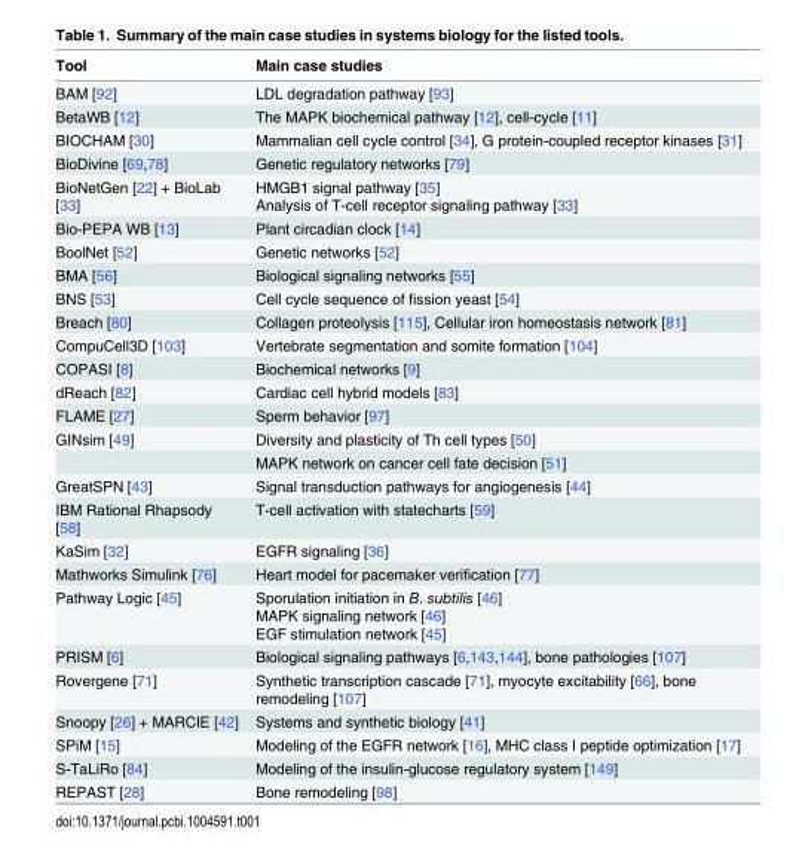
<table><thead><tr><td>Tool</td><td>Main case studies</td></tr></thead><tbody><tr><td>BAM [92]</td><td>LDL degradation pathway [93]</td></tr><tr><td>BetaWB [12]</td><td>The MAPK biochemical pathway [12], cell-cycle [11]</td></tr><tr><td>BIOCHAM [30]</td><td>Mammalian cell cycle control [34], G protein-coupled receptor kinases [31]</td></tr><tr><td>BioDivine [69,78]</td><td>Genetic regulatory networks [79]</td></tr><tr><td>BioNetGen [22] + BioLab [33]</td><td>HMGB1 signal pathway [35] Analysis of T-cell receptor signaling pathway [33]</td></tr><tr><td>Bio-PEPA WB [13]</td><td>Plant circadian clock [14]</td></tr><tr><td>BoolNet [52]</td><td>Genetic networks [52]</td></tr><tr><td>BMA [56]</td><td>Biological signaling networks [55]</td></tr><tr><td>BNS [53]</td><td>Cell cycle sequence of fission yeast [54]</td></tr><tr><td>Breach [80]</td><td>Collagen proteolysis [115], Cellular iron homeostasis network [81]</td></tr><tr><td>CompuCell3D [103]</td><td>Vertebrate segmentation and somite formation [104]</td></tr><tr><td>COPASI [8]</td><td>Biochemical networks [9]</td></tr><tr><td>dReach [82]</td><td>Cardiac cell hybrid models [83]</td></tr><tr><td>FLAME [27]</td><td>Sperm behavior [97]</td></tr><tr><td rowspan="2">GINsim [49]</td><td>Diversity and plasticity of Th cell types [50]</td></tr><tr><td>MAPK network on cancer cell fate decision [51]</td></tr><tr><td>GreatSPN [43]</td><td>Signal transduction pathways for angiogenesis [44]</td></tr><tr><td>IBM Rational Rhapsody [58]</td><td>T-cell activation with statecharts [59]</td></tr><tr><td>KaSim [32]</td><td>EGFR signaling [36]</td></tr><tr><td>Mathworks Simulink [76]</td><td>Heart model for pacemaker verification [77]</td></tr><tr><td>Pathway Logic [45]</td><td>Sporulation initiation in B. subtilis [46] MAPK signaling network [46] EGF stimulation network [45]</td></tr><tr><td>PRISM [6]</td><td>Biological signaling pathways [6,143,144], bone pathologies [107]</td></tr><tr><td>Rovergene [71]</td><td>Synthetic transcription cascade [71], myocyte excitability [66], bone remodeling [107]</td></tr><tr><td>Snoopy [26] + MARCIE [42]</td><td>Systems and synthetic biology [41]</td></tr><tr><td>SPiM [15]</td><td>Modeling of the EGFR network [16], MHC class I peptide optimization [17]</td></tr><tr><td>S-TaLiRo [84]</td><td>Modeling of the insulin-glucose regulatory system [149]</td></tr><tr><td>REPAST [28]</td><td>Bone remodeling [98]</td></tr></tbody></table>